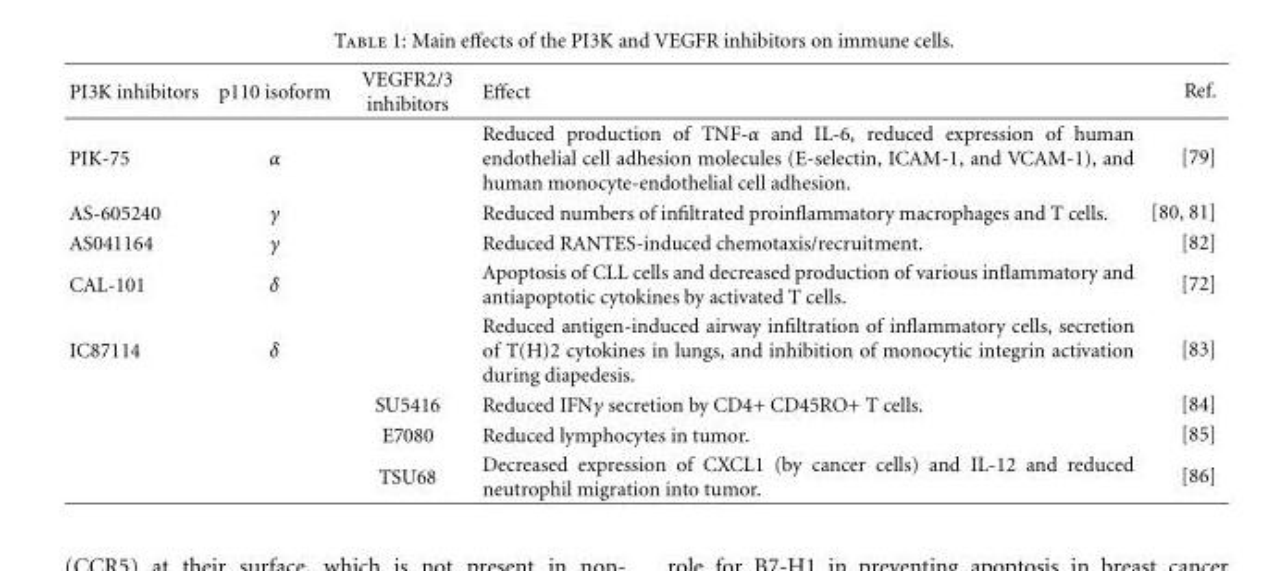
<table><thead><tr><td>PI3K inhibitors</td><td>p110 isoform</td><td>VEGFR2/3 inhibitors</td><td>Effect</td><td>Ref.</td></tr></thead><tbody><tr><td>PIK-75</td><td>α</td><td></td><td>Reduced production of TNF-α and IL-6, reduced expression of human endothelial cell adhesion molecules (E-selectin, ICAM-1, and VCAM-1), and human monocyte-endothelial cell adhesion.</td><td>[79]</td></tr><tr><td>AS-605240</td><td>γ</td><td></td><td>Reduced numbers of infiltrated proinflammatory macrophages and T cells.</td><td>[80, 81]</td></tr><tr><td>AS041164</td><td>γ</td><td></td><td>Reduced RANTES-induced chemotaxis/recruitment.</td><td>[82]</td></tr><tr><td>CAL-101</td><td>δ</td><td></td><td>Apoptosis of CLL cells and decreased production of various inflammatory and antiapoptotic cytokines by activated T cells.</td><td>[72]</td></tr><tr><td rowspan="4">IC87114</td><td>δ</td><td></td><td>Reduced antigen-induced airway infiltration of inflammatory cells, secretion of T(H)2 cytokines in lungs, and inhibition of monocytic integrin activation during diapedesis.</td><td>[83]</td></tr><tr><td></td><td>SU5416</td><td>Reduced IFNγ secretion by CD4+ CD45RO+ T cells.</td><td>[84]</td></tr><tr><td></td><td>E7080</td><td>Reduced lymphocytes in tumor.</td><td>[85]</td></tr><tr><td></td><td>TSU68</td><td>Decreased expression of CXCL1 (by cancer cells) and IL-12 and reduced neutrophil migration into tumor.</td><td>[86]</td></tr></tbody></table>